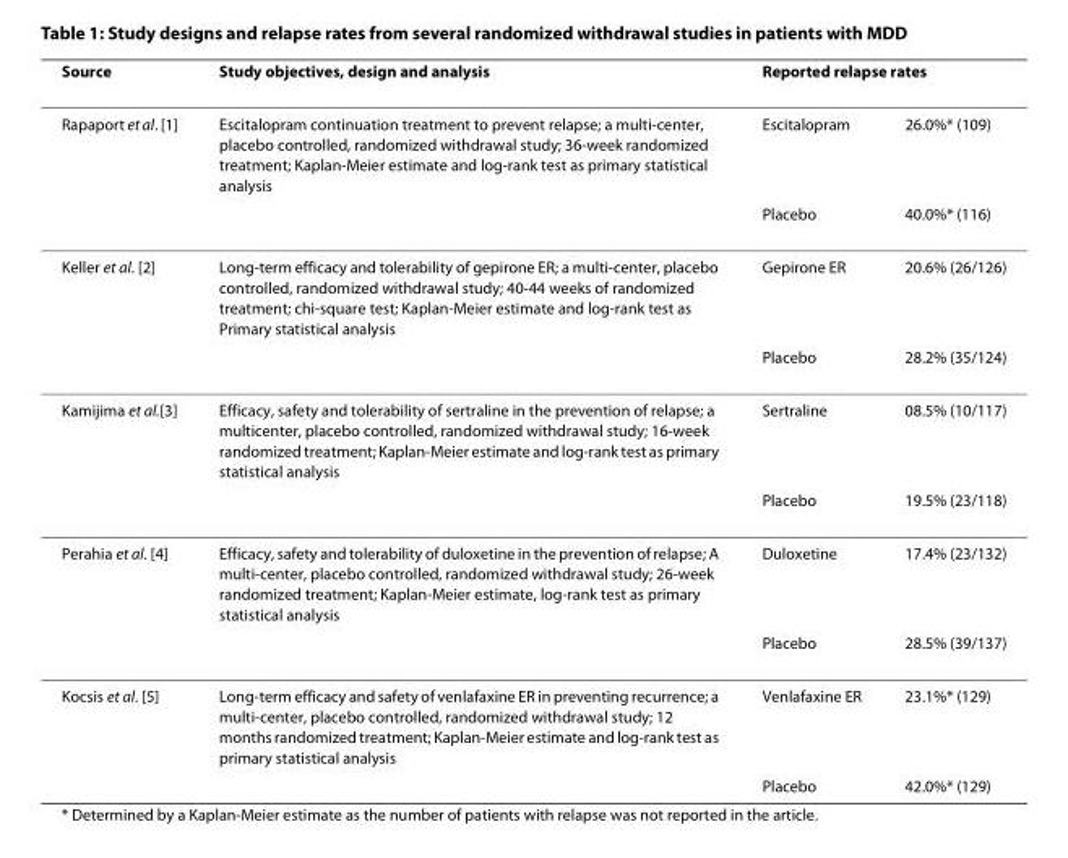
<table><thead><tr><td rowspan="2">Source Rapaport et al. [1]</td><td rowspan="2">Study objectives, design and analysis Escitalopram continuation treatment to prevent relapse; a multi-center, placebo controlled, randomized withdrawal study; 36-week randomized treatment; Kaplan-Meier estimate and log-rank test as primary statistical analysis</td><td colspan="2">Reported relapse rates</td></tr><tr><td>Escitalopram</td><td>26.0%* (109)</td></tr></thead><tbody><tr><td></td><td></td><td>Placebo</td><td>40.0%* (116)</td></tr><tr><td rowspan="2">Keller et al. [2]</td><td>Long-term efficacy and tolerability of gepirone ER; a multi-center, placebo controlled, randomized withdrawal study; 40-44 weeks of randomized treatment; chi-square test; Kaplan-Meier estimate and log-rank test as Primary statistical analysis</td><td>Gepirone ER</td><td>20.6% (26/126)</td></tr><tr><td></td><td>Placebo</td><td>28.2% (35/124)</td></tr><tr><td rowspan="2">Kamijima et al.[3]</td><td>Efficacy, safety and tolerability of sertraline in the prevention of relapse; a multicenter, placebo controlled, randomized withdrawal study; 16-week randomized treatment; Kaplan-Meier estimate and log-rank test as primary statistical analysis</td><td>Sertraline</td><td>08.5% (10/117)</td></tr><tr><td></td><td>Placebo</td><td>19.5% (23/118)</td></tr><tr><td rowspan="2">Perahia et al. [4]</td><td>Efficacy, safety and tolerability of duloxetine in the prevention of relapse; A multi-center, placebo controlled, randomized withdrawal study; 26-week randomized treatment; Kaplan-Meier estimate, log-rank test as primary statistical analysis</td><td>Duloxetine</td><td>17.4% (23/132)</td></tr><tr><td></td><td>Placebo</td><td>28.5% (39/137)</td></tr><tr><td rowspan="2">Kocsis et al. [5]</td><td>Long-term efficacy and safety of venlafaxine ER in preventing recurrence; a multi-center, placebo controlled, randomized withdrawal study; 12 months randomized treatment; Kaplan-Meier estimate and log-rank test as primary statistical analysis</td><td>Venlafaxine ER</td><td>23.1%* (129)</td></tr><tr><td></td><td>Placebo</td><td>42.0%* (129)</td></tr></tbody></table>